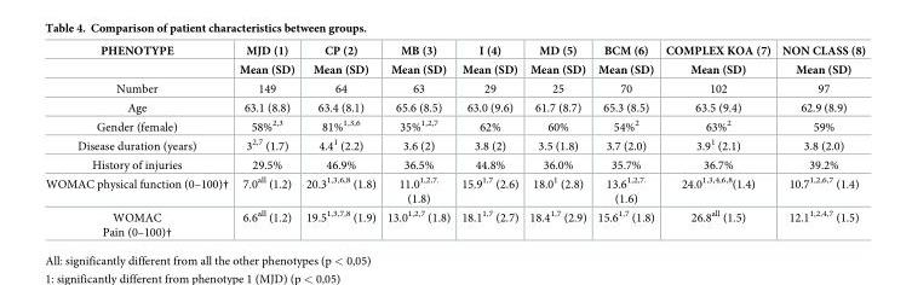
<table><thead><tr><td rowspan="2">PHENOTYPE</td><td rowspan="2">MJD (1) Mean (SD)</td><td rowspan="2">CP (2) Mean (SD)</td><td rowspan="2">MB (3) Mean (SD)</td><td rowspan="2">I (4) Mean (SD)</td><td rowspan="2">MD (5) Mean (SD)</td><td rowspan="2">BCM (6) Mean (SD)</td><td rowspan="2">COMPLEX KOA (7) Mean (SD)</td><td rowspan="2">NON CLASS (8) Mean (SD)</td></tr><tr></tr></thead><tbody><tr><td>Number</td><td>149</td><td>64</td><td>63</td><td>29</td><td>25</td><td>70</td><td>102</td><td>97</td></tr><tr><td>Age</td><td>63.1 (8.8)</td><td>63.4 (8.1)</td><td>65.6 (8.5)</td><td>63.0 (9.6)</td><td>61.7 (8.7)</td><td>65.3 (8.5)</td><td>63.5 (9.4)</td><td>62.9 (8.9)</td></tr><tr><td>Gender (female)</td><td>58%<sup>2,3</sup></td><td>81%<sup>1,3,6</sup></td><td>35%<sup>1,2,7</sup></td><td>62%</td><td>60%</td><td>54%<sup>2</sup></td><td>63%<sup>2</sup></td><td>59%</td></tr><tr><td>Disease duration (years)</td><td>3<sup>2,7</sup> (1.7)</td><td>4.4<sup>1</sup> (2.2)</td><td>3.6 (2)</td><td>3.8 (2)</td><td>3.5 (1.8)</td><td>3.7 (2.0)</td><td>3.9<sup>1</sup> (2.1)</td><td>3.8 (2.0)</td></tr><tr><td>History of injuries</td><td>29.5%</td><td>46.9%</td><td>36.5%</td><td>44.8%</td><td>36.0%</td><td>35.7%</td><td>36.7%</td><td>39.2%</td></tr><tr><td>WOMAC physical function (0–100)†</td><td>7.0<sup>all</sup> (1.2)</td><td>20.3<sup>1,3,6,8</sup> (1.8)</td><td>11.0<sup>1,2,7.</sup> (1.8)</td><td>15.9<sup>1,7</sup> (2.6)</td><td>18.0<sup>1</sup> (2.8)</td><td>13.6<sup>1,2,7.</sup> (1.6)</td><td>24.0<sup>1,3,4,6,8</sup>(1.4)</td><td>10.7<sup>1,2,6,7</sup> (1.4)</td></tr><tr><td>WOMAC Pain (0–100)†</td><td>6.6<sup>all</sup> (1.2)</td><td>19.5<sup>1,3,7,8</sup> (1.9)</td><td>13.0<sup>1,2,7</sup> (1.8)</td><td>18.1<sup>1,7</sup> (2.7)</td><td>18.4<sup>1,7</sup> (2.9)</td><td>15.6<sup>1,7</sup> (1.8)</td><td>26.8<sup>all</sup> (1.5)</td><td>12.1<sup>1,2,4,7</sup> (1.5)</td></tr></tbody></table>